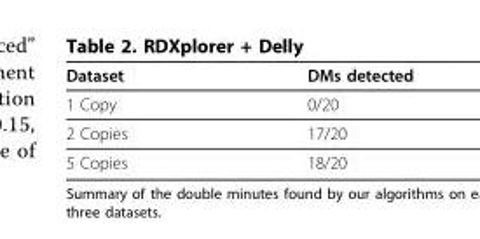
<table><thead><tr><td>Dataset</td><td>DMs detected</td></tr></thead><tbody><tr><td>1 Copy</td><td>0/20</td></tr><tr><td>2 Copies</td><td>17/20</td></tr><tr><td>5 Copies</td><td>18/20</td></tr></tbody></table>